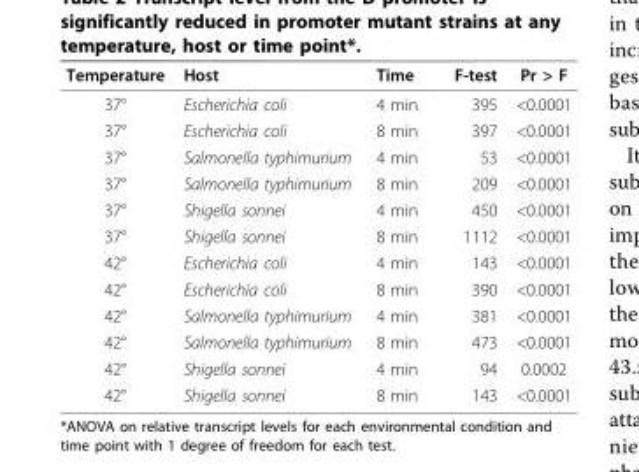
<table><thead><tr><td>Temperature</td><td>Host</td><td>Time</td><td>F-test</td><td>Pr &gt; F</td></tr></thead><tbody><tr><td>37°</td><td>Escherichia coli</td><td>4 min</td><td>395</td><td>&lt;0.0001</td></tr><tr><td>37°</td><td>Escherichia coli</td><td>8 min</td><td>397</td><td>&lt;0.0001</td></tr><tr><td>37°</td><td>Salmonella typhimurium</td><td>4 min</td><td>53</td><td>&lt;0.0001</td></tr><tr><td>37°</td><td>Salmonella typhimurium</td><td>8 min</td><td>209</td><td>&lt;0.0001</td></tr><tr><td>37°</td><td>Shigella sonnei</td><td>4 min</td><td>450</td><td>&lt;0.0001</td></tr><tr><td>37°</td><td>Shigella sonnei</td><td>8 min</td><td>1112</td><td>&lt;0.0001</td></tr><tr><td>42°</td><td>Escherichia coli</td><td>4 min</td><td>143</td><td>&lt;0.0001</td></tr><tr><td>42°</td><td>Escherichia coli</td><td>8 min</td><td>390</td><td>&lt;0.0001</td></tr><tr><td>42°</td><td>Salmonella typhimurium</td><td>4 min</td><td>381</td><td>&lt;0.0001</td></tr><tr><td>42°</td><td>Salmonella typhimurium</td><td>8 min</td><td>473</td><td>&lt;0.0001</td></tr><tr><td>42°</td><td>Shigella sonnei</td><td>4 min</td><td>94</td><td>0.0002</td></tr><tr><td>42°</td><td>Shigella sonnei</td><td>8 min</td><td>143</td><td>&lt;0.0001</td></tr></tbody></table>